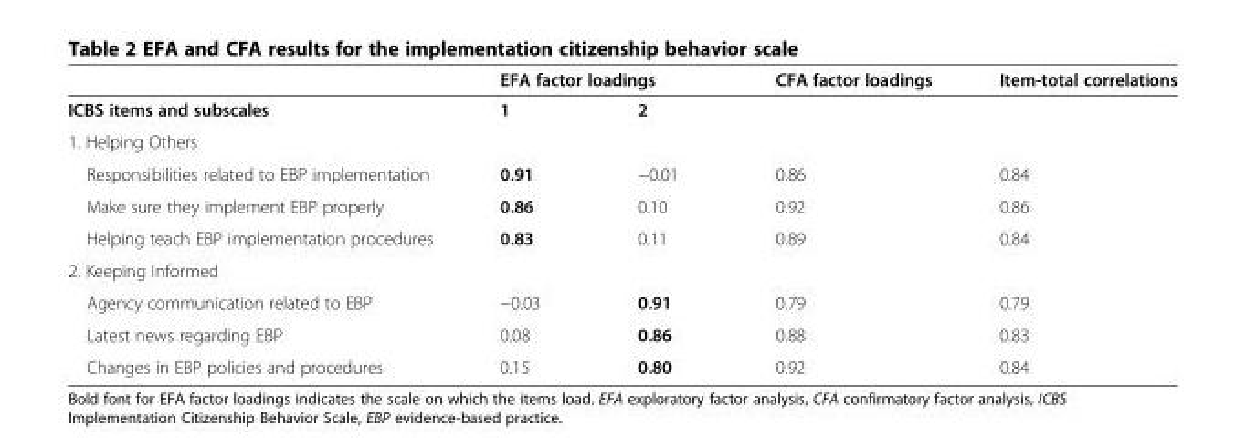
<table><thead><tr><td rowspan="2">ICBS items and subscales</td><td colspan="2">EFA factor loadings</td><td rowspan="2">CFA factor loadings</td><td rowspan="2">Item-total correlations</td></tr><tr><td>1</td><td>2</td></tr></thead><tbody><tr><td colspan="5">1. Helping Others</td></tr><tr><td>Responsibilities related to EBP implementation</td><td>0.91</td><td>−0.01</td><td>0.86</td><td>0.84</td></tr><tr><td>Make sure they implement EBP properly</td><td>0.86</td><td>0.10</td><td>0.92</td><td>0.86</td></tr><tr><td>Helping teach EBP implementation procedures</td><td>0.83</td><td>0.11</td><td>0.89</td><td>0.84</td></tr><tr><td colspan="5">2. Keeping Informed</td></tr><tr><td>Agency communication related to EBP</td><td>−0.03</td><td>0.91</td><td>0.79</td><td>0.79</td></tr><tr><td>Latest news regarding EBP</td><td>0.08</td><td>0.86</td><td>0.88</td><td>0.83</td></tr><tr><td>Changes in EBP policies and procedures</td><td>0.15</td><td>0.80</td><td>0.92</td><td>0.84</td></tr></tbody></table>